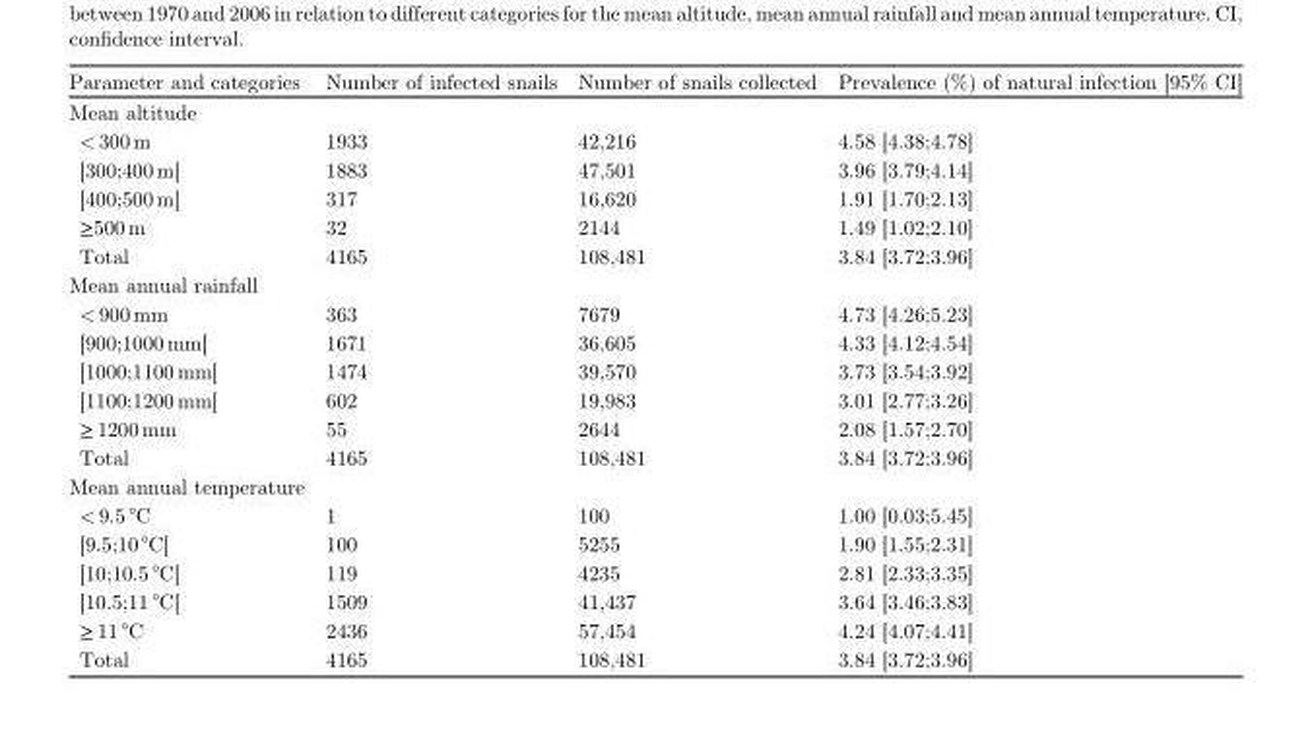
<table><thead><tr><td>Parameter and categories</td><td>Number of infected snails</td><td>Number of snails collected</td><td>Prevalence (%) of natural infection [95% CI]</td></tr></thead><tbody><tr><td colspan="4">Mean altitude</td></tr><tr><td>&lt; 300 m</td><td>1933</td><td>42,216</td><td>4.58 [4.38;4.78]</td></tr><tr><td>[300;400 m[</td><td>1883</td><td>47,501</td><td>3.96 [3.79;4.14]</td></tr><tr><td>[400;500 m[</td><td>317</td><td>16,620</td><td>1.91 [1.70;2.13]</td></tr><tr><td>≥500 m</td><td>32</td><td>2144</td><td>1.49 [1.02;2.10]</td></tr><tr><td>Total</td><td>4165</td><td>108,481</td><td>3.84 [3.72;3.96]</td></tr><tr><td colspan="4">Mean annual rainfall</td></tr><tr><td>&lt; 900 mm</td><td>363</td><td>7679</td><td>4.73 [4.26;5.23]</td></tr><tr><td>[900;1000 mm[</td><td>1671</td><td>36,605</td><td>4.33 [4.12;4.54]</td></tr><tr><td>[1000;1100 mm[</td><td>1474</td><td>39,570</td><td>3.73 [3.54;3.92]</td></tr><tr><td>[1100;1200 mm[</td><td>602</td><td>19,983</td><td>3.01 [2.77;3.26]</td></tr><tr><td>≥ 1200 mm</td><td>55</td><td>2644</td><td>2.08 [1.57;2.70]</td></tr><tr><td>Total</td><td>4165</td><td>108,481</td><td>3.84 [3.72;3.96]</td></tr><tr><td colspan="4">Mean annual temperature</td></tr><tr><td>&lt; 9.5 °C</td><td>1</td><td>100</td><td>1.00 [0.03;5.45]</td></tr><tr><td>[9.5;10 °C[</td><td>100</td><td>5255</td><td>1.90 [1.55;2.31]</td></tr><tr><td>[10;10.5 °C[</td><td>119</td><td>4235</td><td>2.81 [2.33;3.35]</td></tr><tr><td>[10.5;11 °C[</td><td>1509</td><td>41,437</td><td>3.64 [3.46;3.83]</td></tr><tr><td>≥ 11 °C</td><td>2436</td><td>57,454</td><td>4.24 [4.07;4.41]</td></tr><tr><td>Total</td><td>4165</td><td>108,481</td><td>3.84 [3.72;3.96]</td></tr></tbody></table>